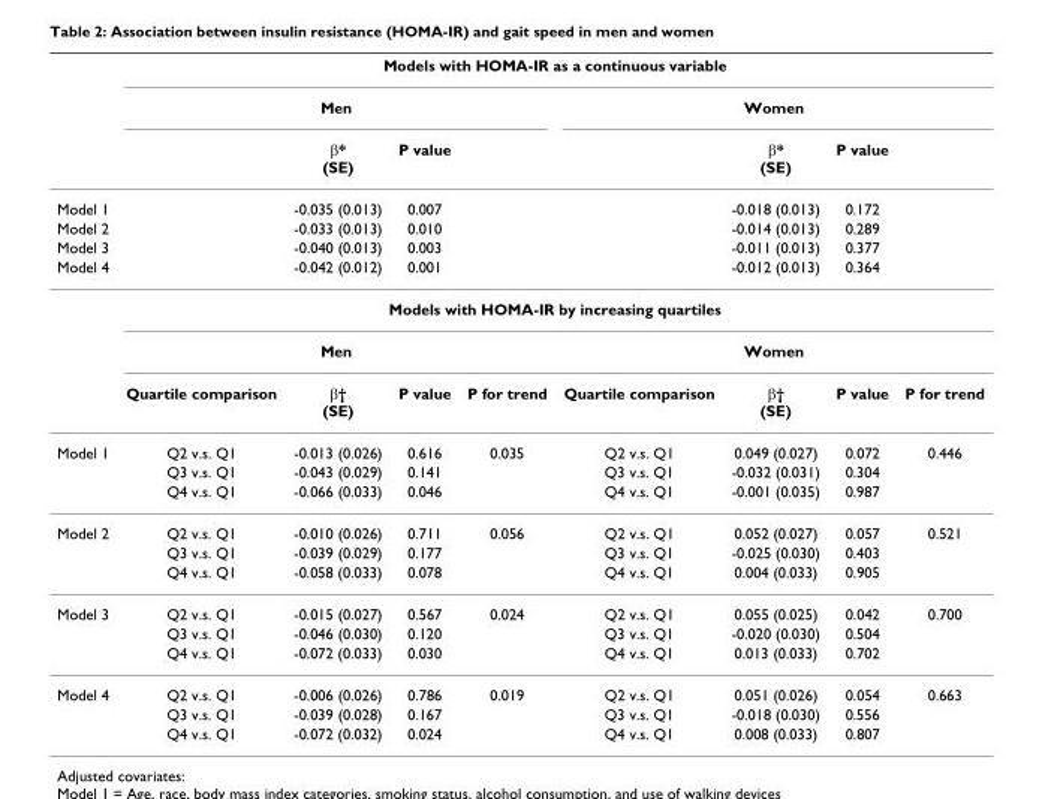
<table><thead><tr><td rowspan="3"></td><td colspan="8">Models with HOMA-IR as a continuous variable</td></tr><tr><td colspan="4">Men</td><td colspan="4">Women</td></tr><tr><td></td><td>β* (SE)</td><td>P value</td><td></td><td></td><td>β* (SE)</td><td>P value</td><td></td></tr></thead><tbody><tr><td>Model 1</td><td></td><td>-0.035 (0.013)</td><td>0.007</td><td></td><td></td><td>-0.018 (0.013)</td><td>0.172</td><td></td></tr><tr><td>Model 2</td><td></td><td>-0.033 (0.013)</td><td>0.010</td><td></td><td></td><td>-0.014 (0.013)</td><td>0.289</td><td></td></tr><tr><td>Model 3</td><td></td><td>-0.040 (0.013)</td><td>0.003</td><td></td><td></td><td>-0.011 (0.013)</td><td>0.377</td><td></td></tr><tr><td rowspan="4">Model 4</td><td></td><td>-0.042 (0.012)</td><td>0.001</td><td></td><td></td><td>-0.012 (0.013)</td><td>0.364</td><td></td></tr><tr><td colspan="8">Models with HOMA-IR by increasing quartiles</td></tr><tr><td colspan="4">Men</td><td colspan="4">Women</td></tr><tr><td>Quartile comparison</td><td>β† (SE)</td><td>P value</td><td>P for trend</td><td>Quartile comparison</td><td>β† (SE)</td><td>P value</td><td>P for trend</td></tr><tr><td rowspan="3">Model 1</td><td>Q2 v.s. Q1</td><td>-0.013 (0.026)</td><td>0.616</td><td>0.035</td><td>Q2 v.s. Q1</td><td>0.049 (0.027)</td><td>0.072</td><td>0.446</td></tr><tr><td>Q3 v.s. Q1</td><td>-0.043 (0.029)</td><td>0.141</td><td></td><td>Q3 v.s. Q1</td><td>-0.032 (0.031)</td><td>0.304</td><td></td></tr><tr><td>Q4 v.s. Q1</td><td>-0.066 (0.033)</td><td>0.046</td><td></td><td>Q4 v.s. Q1</td><td>-0.001 (0.035)</td><td>0.987</td><td></td></tr><tr><td rowspan="3">Model 2</td><td>Q2 v.s. Q1</td><td>-0.010 (0.026)</td><td>0.711</td><td>0.056</td><td>Q2 v.s. Q1</td><td>0.052 (0.027)</td><td>0.057</td><td>0.521</td></tr><tr><td>Q3 v.s. Q1</td><td>-0.039 (0.029)</td><td>0.177</td><td></td><td>Q3 v.s. Q1</td><td>-0.025 (0.030)</td><td>0.403</td><td></td></tr><tr><td>Q4 v.s. Q1</td><td>-0.058 (0.033)</td><td>0.078</td><td></td><td>Q4 v.s. Q1</td><td>0.004 (0.033)</td><td>0.905</td><td></td></tr><tr><td rowspan="3">Model 3</td><td>Q2 v.s. Q1</td><td>-0.015 (0.027)</td><td>0.567</td><td>0.024</td><td>Q2 v.s. Q1</td><td>0.055 (0.025)</td><td>0.042</td><td>0.700</td></tr><tr><td>Q3 v.s. Q1</td><td>-0.046 (0.030)</td><td>0.120</td><td></td><td>Q3 v.s. Q1</td><td>-0.020 (0.030)</td><td>0.504</td><td></td></tr><tr><td>Q4 v.s. Q1</td><td>-0.072 (0.033)</td><td>0.030</td><td></td><td>Q4 v.s. Q1</td><td>0.013 (0.033)</td><td>0.702</td><td></td></tr><tr><td rowspan="3">Model 4</td><td>Q2 v.s. Q1</td><td>-0.006 (0.026)</td><td>0.786</td><td>0.019</td><td>Q2 v.s. Q1</td><td>0.051 (0.026)</td><td>0.054</td><td>0.663</td></tr><tr><td>Q3 v.s. Q1</td><td>-0.039 (0.028)</td><td>0.167</td><td></td><td>Q3 v.s. Q1</td><td>-0.018 (0.030)</td><td>0.556</td><td></td></tr><tr><td>Q4 v.s. Q1</td><td>-0.072 (0.032)</td><td>0.024</td><td></td><td>Q4 v.s. Q1</td><td>0.008 (0.033)</td><td>0.807</td><td></td></tr></tbody></table>